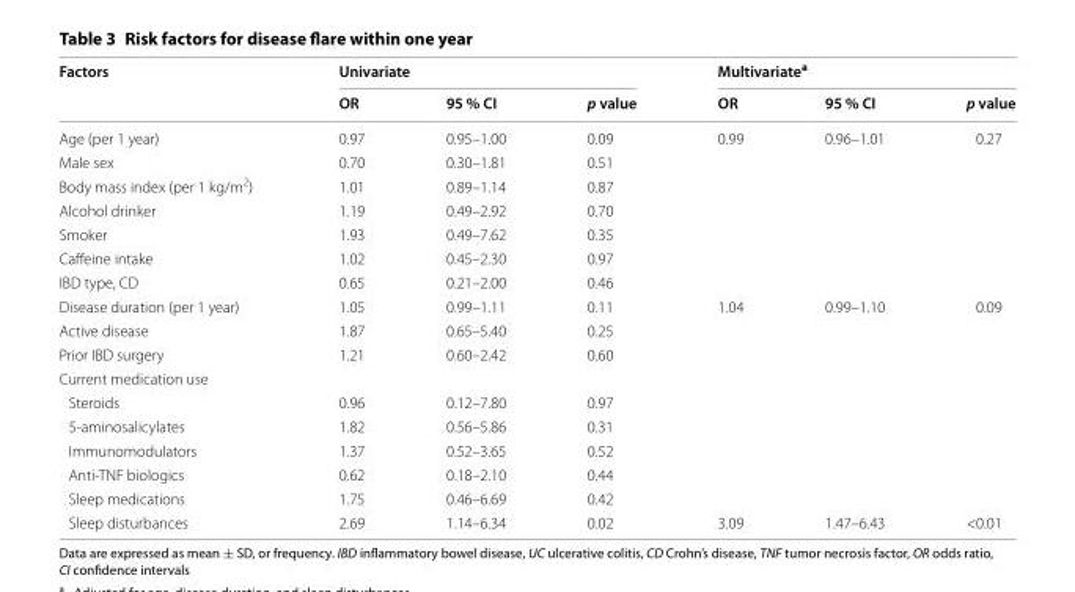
<table><thead><tr><td rowspan="2">Factors</td><td colspan="3">Univariate</td><td colspan="3">Multivariate<sup>a</sup></td></tr><tr><td>OR</td><td>95 % CI</td><td>p value</td><td>OR</td><td>95 % CI</td><td>p value</td></tr></thead><tbody><tr><td>Age (per 1 year)</td><td>0.97</td><td>0.95–1.00</td><td>0.09</td><td>0.99</td><td>0.96–1.01</td><td>0.27</td></tr><tr><td>Male sex</td><td>0.70</td><td>0.30–1.81</td><td>0.51</td><td></td><td></td><td></td></tr><tr><td>Body mass index (per 1 kg/m<sup>2</sup>)</td><td>1.01</td><td>0.89–1.14</td><td>0.87</td><td></td><td></td><td></td></tr><tr><td>Alcohol drinker</td><td>1.19</td><td>0.49–2.92</td><td>0.70</td><td></td><td></td><td></td></tr><tr><td>Smoker</td><td>1.93</td><td>0.49–7.62</td><td>0.35</td><td></td><td></td><td></td></tr><tr><td>Caffeine intake</td><td>1.02</td><td>0.45–2.30</td><td>0.97</td><td></td><td></td><td></td></tr><tr><td>IBD type, CD</td><td>0.65</td><td>0.21–2.00</td><td>0.46</td><td></td><td></td><td></td></tr><tr><td>Disease duration (per 1 year)</td><td>1.05</td><td>0.99–1.11</td><td>0.11</td><td>1.04</td><td>0.99–1.10</td><td>0.09</td></tr><tr><td>Active disease</td><td>1.87</td><td>0.65–5.40</td><td>0.25</td><td></td><td></td><td></td></tr><tr><td>Prior IBD surgery</td><td>1.21</td><td>0.60–2.42</td><td>0.60</td><td></td><td></td><td></td></tr><tr><td colspan="7">Current medication use</td></tr><tr><td>Steroids</td><td>0.96</td><td>0.12–7.80</td><td>0.97</td><td></td><td></td><td></td></tr><tr><td>5-aminosalicylates</td><td>1.82</td><td>0.56–5.86</td><td>0.31</td><td></td><td></td><td></td></tr><tr><td>Immunomodulators</td><td>1.37</td><td>0.52–3.65</td><td>0.52</td><td></td><td></td><td></td></tr><tr><td>Anti-TNF biologics</td><td>0.62</td><td>0.18–2.10</td><td>0.44</td><td></td><td></td><td></td></tr><tr><td>Sleep medications</td><td>1.75</td><td>0.46–6.69</td><td>0.42</td><td></td><td></td><td></td></tr><tr><td>Sleep disturbances</td><td>2.69</td><td>1.14–6.34</td><td>0.02</td><td>3.09</td><td>1.47–6.43</td><td>&lt;0.01</td></tr></tbody></table>